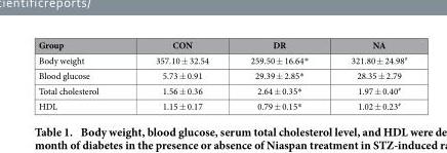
<table><thead><tr><td>Group</td><td>CON</td><td>DR</td><td>NA</td></tr></thead><tbody><tr><td>Body weight</td><td>357.10 ± 32.54</td><td>259.50 ± 16.64*</td><td>321.80 ± 24.98<sup>#</sup></td></tr><tr><td>Blood glucose</td><td>5.73 ± 0.91</td><td>29.39 ± 2.85*</td><td>28.35 ± 2.79</td></tr><tr><td>Total cholesterol</td><td>1.56 ± 0.36</td><td>2.64 ± 0.35*</td><td>1.97 ± 0.40<sup>#</sup></td></tr><tr><td>HDL</td><td>1.15 ± 0.17</td><td>0.79 ± 0.15*</td><td>1.02 ± 0.23<sup>#</sup></td></tr></tbody></table>